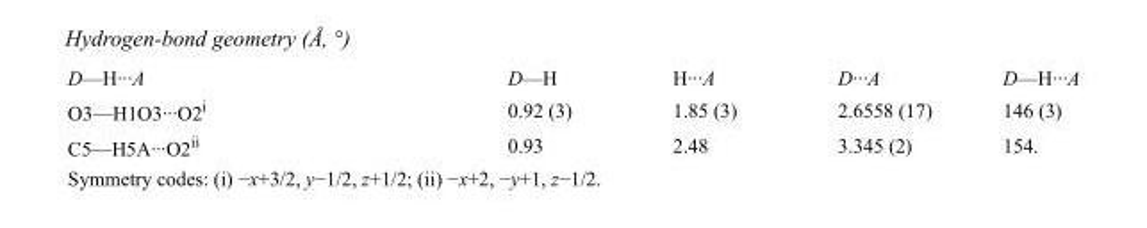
<table><tbody><tr><td>D—H···A</td><td>D—H</td><td>H···A</td><td>D···A</td><td>D—H···A</td></tr><tr><td>O3—H1O3···O2<sup>i</sup></td><td>0.92 (3)</td><td>1.85 (3)</td><td>2.6558 (17)</td><td>146 (3)</td></tr><tr><td>C5—H5A···O2<sup>ii</sup></td><td>0.93</td><td>2.48</td><td>3.345 (2)</td><td>154.</td></tr></tbody></table>